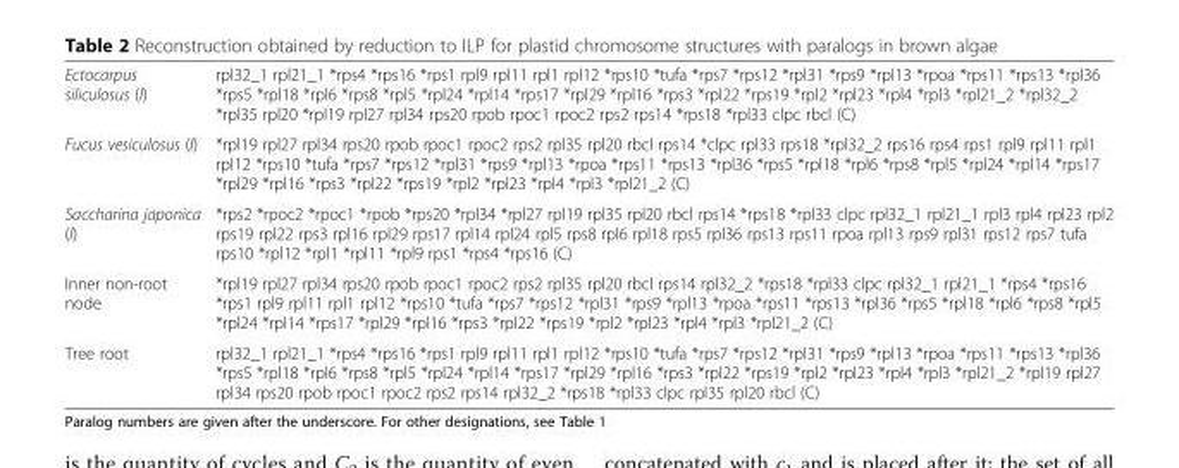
<table><tbody><tr><td>Ectocarpus siliculosus (l)</td><td>rpl32_1 rpl21_1 *rps4 *rps16 *rps1 rpl9 rpl11 rpl1 rpl12 *rps10 *tufa *rps7 *rps12 *rpl31 *rps9 *rpl13 *rpoa *rps11 *rps13 *rpl36 *rps5 *rpl18 *rpl6 *rps8 *rpl5 *rpl24 *rpl14 *rps17 *rpl29 *rpl16 *rps3 *rpl22 *rps19 *rpl2 *rpl23 *rpl4 *rpl3 *rpl21_2 *rpl32_2 *rpl35 rpl20 *rpl19 rpl27 rpl34 rps20 rpob rpoc1 rpoc2 rps2 rps14 *rps18 *rpl33 clpc rbcl (C)</td></tr><tr><td>Fucus vesiculosus (l)</td><td>*rpl19 rpl27 rpl34 rps20 rpob rpoc1 rpoc2 rps2 rpl35 rpl20 rbcl rps14 *clpc rpl33 rps18 *rpl32_2 rps16 rps4 rps1 rpl9 rpl11 rpl1 rpl12 *rps10 *tufa *rps7 *rps12 *rpl31 *rps9 *rpl13 *rpoa *rps11 *rps13 *rpl36 *rps5 *rpl18 *rpl6 *rps8 *rpl5 *rpl24 *rpl14 *rps17 *rpl29 *rpl16 *rps3 *rpl22 *rps19 *rpl2 *rpl23 *rpl4 *rpl3 *rpl21_2 (C)</td></tr><tr><td>Saccharina japonica (l)</td><td>*rps2 *rpoc2 *rpoc1 *rpob *rps20 *rpl34 *rpl27 rpl19 rpl35 rpl20 rbcl rps14 *rps18 *rpl33 clpc rpl32_1 rpl21_1 rpl3 rpl4 rpl23 rpl2 rps19 rpl22 rps3 rpl16 rpl29 rps17 rpl14 rpl24 rpl5 rps8 rpl6 rpl18 rps5 rpl36 rps13 rps11 rpoa rpl13 rps9 rpl31 rps12 rps7 tufa rps10 *rpl12 *rpl1 *rpl11 *rpl9 rps1 *rps4 *rps16 (C)</td></tr><tr><td>Inner non-root node</td><td>*rpl19 rpl27 rpl34 rps20 rpob rpoc1 rpoc2 rps2 rpl35 rpl20 rbcl rps14 rpl32_2 *rps18 *rpl33 clpc rpl32_1 rpl21_1 *rps4 *rps16 *rps1 rpl9 rpl11 rpl1 rpl12 *rps10 *tufa *rps7 *rps12 *rpl31 *rps9 *rpl13 *rpoa *rps11 *rps13 *rpl36 *rps5 *rpl18 *rpl6 *rps8 *rpl5 *rpl24 *rpl14 *rps17 *rpl29 *rpl16 *rps3 *rpl22 *rps19 *rpl2 *rpl23 *rpl4 *rpl3 *rpl21_2 (C)</td></tr><tr><td>Tree root</td><td>rpl32_1 rpl21_1 *rps4 *rps16 *rps1 rpl9 rpl11 rpl1 rpl12 *rps10 *tufa *rps7 *rps12 *rpl31 *rps9 *rpl13 *rpoa *rps11 *rps13 *rpl36 *rps5 *rpl18 *rpl6 *rps8 *rpl5 *rpl24 *rpl14 *rps17 *rpl29 *rpl16 *rps3 *rpl22 *rps19 *rpl2 *rpl23 *rpl4 *rpl3 *rpl21_2 *rpl19 rpl27 rpl34 rps20 rpob rpoc1 rpoc2 rps2 rps14 rpl32_2 *rps18 *rpl33 clpc rpl35 rpl20 rbcl (C)</td></tr></tbody></table>